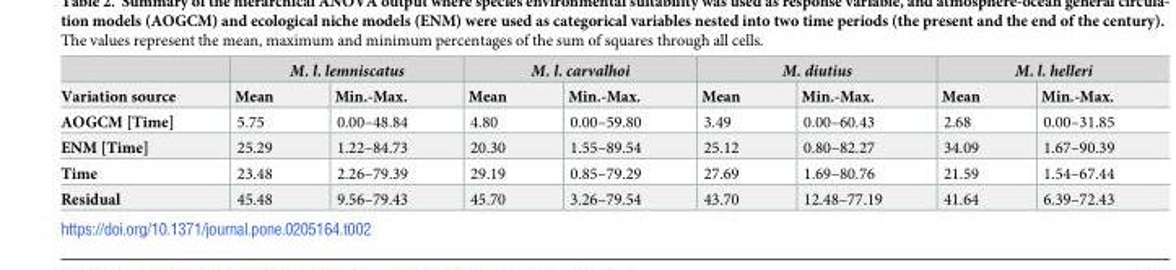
<table><thead><tr><td rowspan="2">Variation source</td><td colspan="2">M. l. lemniscatus</td><td colspan="2">M. l. carvalhoi</td><td colspan="2">M. diutius</td><td colspan="2">M. l. helleri</td></tr><tr><td>Mean</td><td>Min.-Max.</td><td>Mean</td><td>Min.-Max.</td><td>Mean</td><td>Min.-Max.</td><td>Mean</td><td>Min.-Max.</td></tr></thead><tbody><tr><td>AOGCM [Time]</td><td>5.75</td><td>0.00–48.84</td><td>4.80</td><td>0.00–59.80</td><td>3.49</td><td>0.00–60.43</td><td>2.68</td><td>0.00–31.85</td></tr><tr><td>ENM [Time]</td><td>25.29</td><td>1.22–84.73</td><td>20.30</td><td>1.55–89.54</td><td>25.12</td><td>0.80–82.27</td><td>34.09</td><td>1.67–90.39</td></tr><tr><td>Time</td><td>23.48</td><td>2.26–79.39</td><td>29.19</td><td>0.85–79.29</td><td>27.69</td><td>1.69–80.76</td><td>21.59</td><td>1.54–67.44</td></tr><tr><td>Residual</td><td>45.48</td><td>9.56–79.43</td><td>45.70</td><td>3.26–79.54</td><td>43.70</td><td>12.48–77.19</td><td>41.64</td><td>6.39–72.43</td></tr></tbody></table>